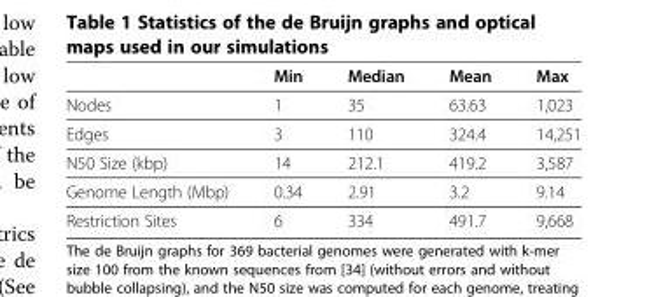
<table><thead><tr><td></td><td>Min</td><td>Median</td><td>Mean</td><td>Max</td></tr></thead><tbody><tr><td>Nodes</td><td>1</td><td>35</td><td>63.63</td><td>1,023</td></tr><tr><td>Edges</td><td>3</td><td>110</td><td>324.4</td><td>14,251</td></tr><tr><td>N50 Size (kbp)</td><td>14</td><td>212.1</td><td>419.2</td><td>3,587</td></tr><tr><td>Genome Length (Mbp)</td><td>0.34</td><td>2.91</td><td>3.2</td><td>9.14</td></tr><tr><td>Restriction Sites</td><td>6</td><td>334</td><td>491.7</td><td>9,668</td></tr></tbody></table>